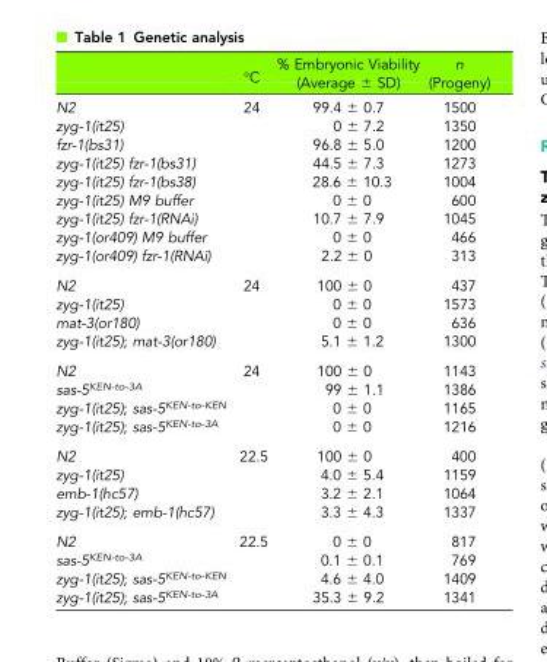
<table><thead><tr><td></td><td>°C</td><td>% Embryonic Viability (Average ± SD)</td><td>n (Progeny)</td></tr></thead><tbody><tr><td>N2</td><td rowspan="9">24</td><td>99.4 ± 0.7</td><td>1500</td></tr><tr><td>zyg-1(it25)</td><td>0 ± 7.2</td><td>1350</td></tr><tr><td>fzr-1(bs31)</td><td>96.8 ± 5.0</td><td>1200</td></tr><tr><td>zyg-1(it25) fzr-1(bs31)</td><td>44.5 ± 7.3</td><td>1273</td></tr><tr><td>zyg-1(it25) fzr-1(bs38)</td><td>28.6 ± 10.3</td><td>1004</td></tr><tr><td>zyg-1(it25) M9 buffer</td><td>0 ± 0</td><td>600</td></tr><tr><td>zyg-1(it25) fzr-1(RNAi)</td><td>10.7 ± 7.9</td><td>1045</td></tr><tr><td>zyg-1(or409) M9 buffer</td><td>0 ± 0</td><td>466</td></tr><tr><td>zyg-1(or409) fzr-1(RNAi)</td><td>2.2 ± 0</td><td>313</td></tr><tr><td>N2</td><td rowspan="4">24</td><td>100 ± 0</td><td>437</td></tr><tr><td>zyg-1(it25)</td><td>0 ± 0</td><td>1573</td></tr><tr><td>mat-3(or180)</td><td>0 ± 0</td><td>636</td></tr><tr><td>zyg-1(it25); mat-3(or180)</td><td>5.1 ± 1.2</td><td>1300</td></tr><tr><td>N2</td><td rowspan="4">24</td><td>100 ± 0</td><td>1143</td></tr><tr><td>sas-5<sup>KEN-to-3A</sup></td><td>99 ± 1.1</td><td>1386</td></tr><tr><td>zyg-1(it25); sas-5<sup>KEN-to-KEN</sup></td><td>0 ± 0</td><td>1165</td></tr><tr><td>zyg-1(it25); sas-5<sup>KEN-to-3A</sup></td><td>0 ± 0</td><td>1216</td></tr><tr><td>N2</td><td rowspan="4">22.5</td><td>100 ± 0</td><td>400</td></tr><tr><td>zyg-1(it25)</td><td>4.0 ± 5.4</td><td>1159</td></tr><tr><td>emb-1(hc57)</td><td>3.2 ± 2.1</td><td>1064</td></tr><tr><td>zyg-1(it25); emb-1(hc57)</td><td>3.3 ± 4.3</td><td>1337</td></tr><tr><td>N2</td><td rowspan="4">22.5</td><td>0 ± 0</td><td>817</td></tr><tr><td>sas-5<sup>KEN-to-3A</sup></td><td>0.1 ± 0.1</td><td>769</td></tr><tr><td>zyg-1(it25); sas-5<sup>KEN-to-KEN</sup></td><td>4.6 ± 4.0</td><td>1409</td></tr><tr><td>zyg-1(it25); sas-5<sup>KEN-to-3A</sup></td><td>35.3 ± 9.2</td><td>1341</td></tr></tbody></table>